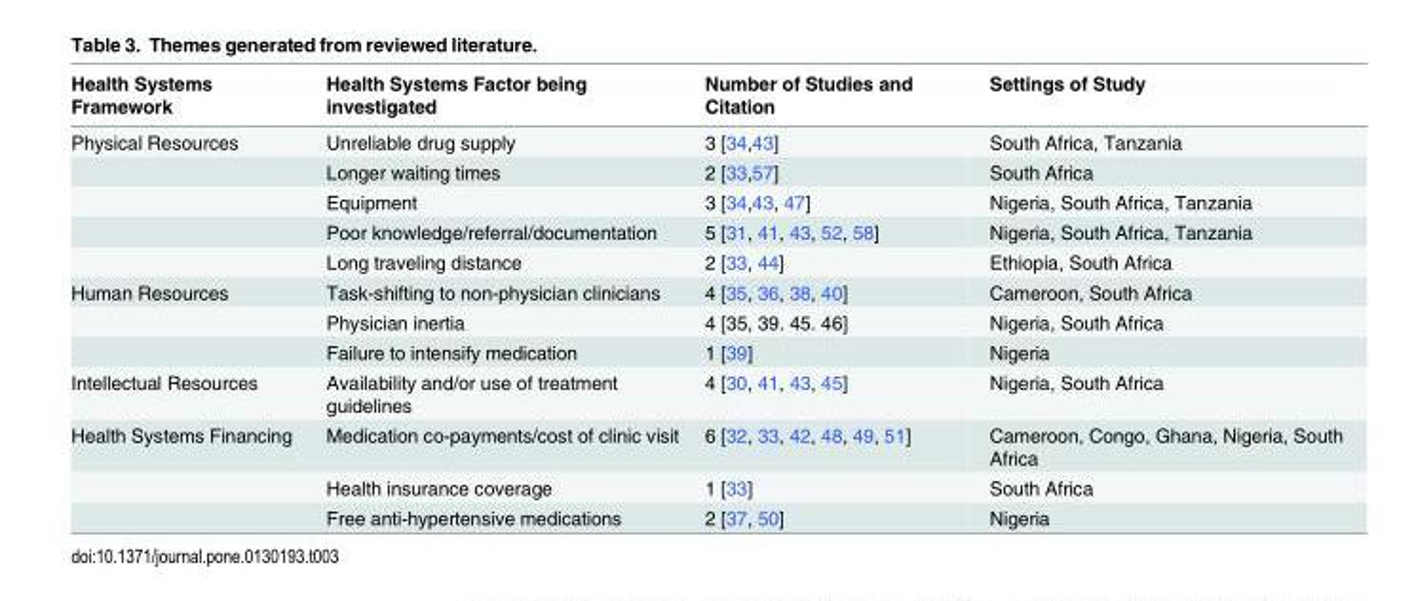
<table><thead><tr><td>Health Systems Framework</td><td>Health Systems Factor being investigated</td><td>Number of Studies and Citation</td><td>Settings of Study</td></tr></thead><tbody><tr><td rowspan="5">Physical Resources</td><td>Unreliable drug supply</td><td>3 [34,43]</td><td>South Africa, Tanzania</td></tr><tr><td>Longer waiting times</td><td>2 [33,57]</td><td>South Africa</td></tr><tr><td>Equipment</td><td>3 [34,43, 47]</td><td>Nigeria, South Africa, Tanzania</td></tr><tr><td>Poor knowledge/referral/documentation</td><td>5 [31, 41, 43, 52, 58]</td><td>Nigeria, South Africa, Tanzania</td></tr><tr><td>Long traveling distance</td><td>2 [33, 44]</td><td>Ethiopia, South Africa</td></tr><tr><td rowspan="3">Human Resources</td><td>Task-shifting to non-physician clinicians</td><td>4 [35, 36, 38, 40]</td><td>Cameroon, South Africa</td></tr><tr><td>Physician inertia</td><td>4 [35, 39. 45. 46]</td><td>Nigeria, South Africa</td></tr><tr><td>Failure to intensify medication</td><td>1 [39]</td><td>Nigeria</td></tr><tr><td>Intellectual Resources</td><td>Availability and/or use of treatment guidelines</td><td>4 [30, 41, 43, 45]</td><td>Nigeria, South Africa</td></tr><tr><td rowspan="3">Health Systems Financing</td><td>Medication co-payments/cost of clinic visit</td><td>6 [32, 33, 42, 48, 49, 51]</td><td>Cameroon, Congo, Ghana, Nigeria, South Africa</td></tr><tr><td>Health insurance coverage</td><td>1 [33]</td><td>South Africa</td></tr><tr><td>Free anti-hypertensive medications</td><td>2 [37, 50]</td><td>Nigeria</td></tr></tbody></table>